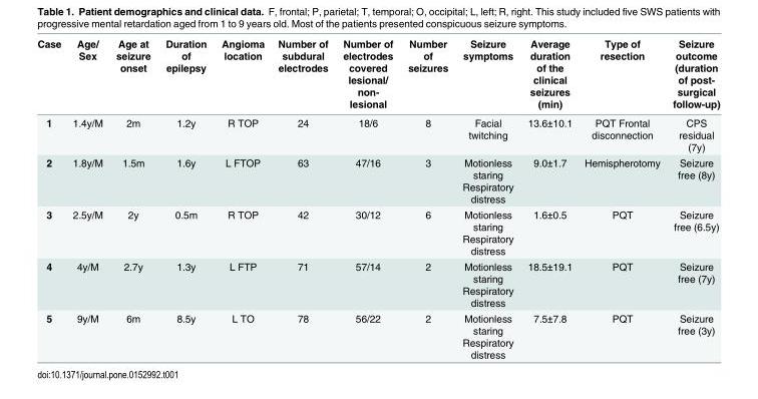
<table><thead><tr><td>Case</td><td>Age/ Sex</td><td>Age at seizure onset</td><td>Duration of epilepsy</td><td>Angioma location</td><td>Number of subdural electrodes</td><td>Number of electrodes covered lesional/ non- lesional</td><td>Number of seizures</td><td>Seizure symptoms</td><td>Average duration of the clinical seizures (min)</td><td>Type of resection</td><td>Seizure outcome (duration of post- surgical follow-up)</td></tr></thead><tbody><tr><td>1</td><td>1.4y/M</td><td>2m</td><td>1.2y</td><td>R TOP</td><td>24</td><td>18/6</td><td>8</td><td>Facial twitching</td><td>13.6±10.1</td><td>PQT Frontal disconnection</td><td>CPS residual (7y)</td></tr><tr><td>2</td><td>1.8y/M</td><td>1.5m</td><td>1.6y</td><td>L FTOP</td><td>63</td><td>47/16</td><td>3</td><td>Motionless staring Respiratory distress</td><td>9.0±1.7</td><td>Hemispherotomy</td><td>Seizure free (8y)</td></tr><tr><td>3</td><td>2.5y/M</td><td>2y</td><td>0.5m</td><td>R TOP</td><td>42</td><td>30/12</td><td>6</td><td>Motionless staring Respiratory distress</td><td>1.6±0.5</td><td>PQT</td><td>Seizure free (6.5y)</td></tr><tr><td>4</td><td>4y/M</td><td>2.7y</td><td>1.3y</td><td>L FTP</td><td>71</td><td>57/14</td><td>2</td><td>Motionless staring Respiratory distress</td><td>18.5±19.1</td><td>PQT</td><td>Seizure free (7y)</td></tr><tr><td>5</td><td>9y/M</td><td>6m</td><td>8.5y</td><td>L TO</td><td>78</td><td>56/22</td><td>2</td><td>Motionless staring Respiratory distress</td><td>7.5±7.8</td><td>PQT</td><td>Seizure free (3y)</td></tr></tbody></table>